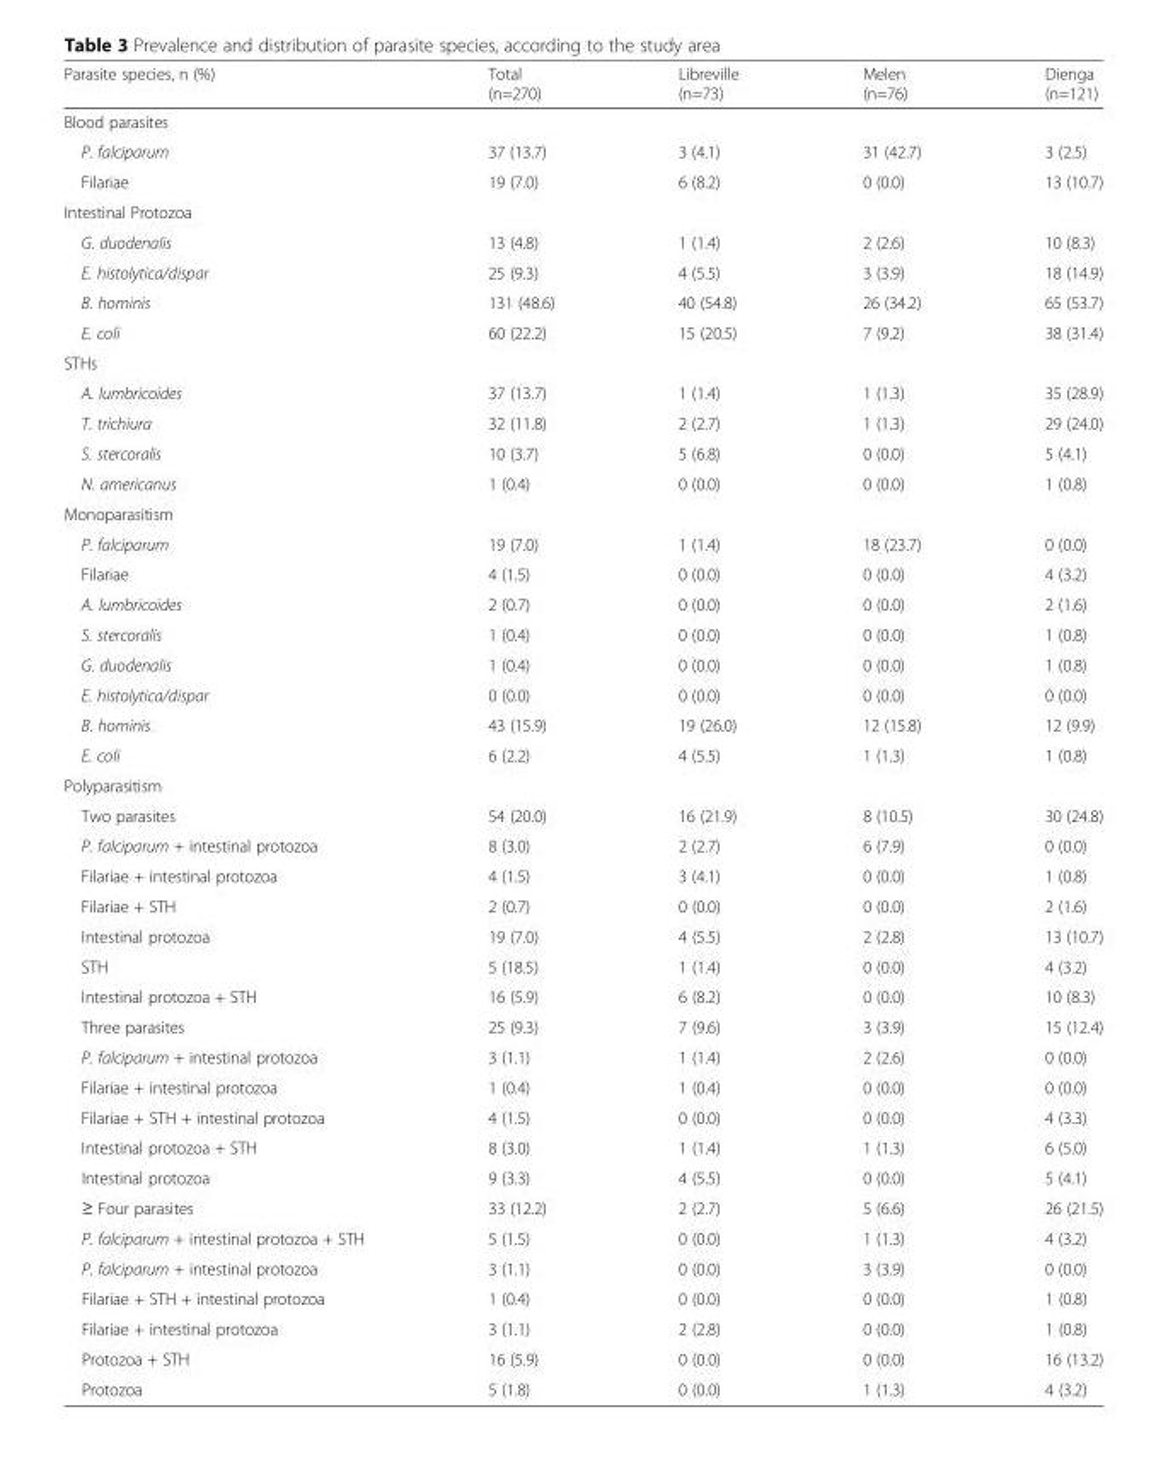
<table><thead><tr><td>Parasite species, n (%)</td><td>Total (n=270)</td><td>Libreville (n=73)</td><td>Melen (n=76)</td><td>Dienga (n=121)</td></tr></thead><tbody><tr><td colspan="5">Blood parasites</td></tr><tr><td>P. falciparum</td><td>37 (13.7)</td><td>3 (4.1)</td><td>31 (42.7)</td><td>3 (2.5)</td></tr><tr><td>Filariae</td><td>19 (7.0)</td><td>6 (8.2)</td><td>0 (0.0)</td><td>13 (10.7)</td></tr><tr><td colspan="5">Intestinal Protozoa</td></tr><tr><td>G. duodenalis</td><td>13 (4.8)</td><td>1 (1.4)</td><td>2 (2.6)</td><td>10 (8.3)</td></tr><tr><td>E. histolytica/dispar</td><td>25 (9.3)</td><td>4 (5.5)</td><td>3 (3.9)</td><td>18 (14.9)</td></tr><tr><td>B. hominis</td><td>131 (48.6)</td><td>40 (54.8)</td><td>26 (34.2)</td><td>65 (53.7)</td></tr><tr><td>E. coli</td><td>60 (22.2)</td><td>15 (20.5)</td><td>7 (9.2)</td><td>38 (31.4)</td></tr><tr><td colspan="5">STHs</td></tr><tr><td>A. lumbricoides</td><td>37 (13.7)</td><td>1 (1.4)</td><td>1 (1.3)</td><td>35 (28.9)</td></tr><tr><td>T. trichiura</td><td>32 (11.8)</td><td>2 (2.7)</td><td>1 (1.3)</td><td>29 (24.0)</td></tr><tr><td>S. stercoralis</td><td>10 (3.7)</td><td>5 (6.8)</td><td>0 (0.0)</td><td>5 (4.1)</td></tr><tr><td>N. americanus</td><td>1 (0.4)</td><td>0 (0.0)</td><td>0 (0.0)</td><td>1 (0.8)</td></tr><tr><td colspan="5">Monoparasitism</td></tr><tr><td>P. falciparum</td><td>19 (7.0)</td><td>1 (1.4)</td><td>18 (23.7)</td><td>0 (0.0)</td></tr><tr><td>Filariae</td><td>4 (1.5)</td><td>0 (0.0)</td><td>0 (0.0)</td><td>4 (3.2)</td></tr><tr><td>A. lumbricoides</td><td>2 (0.7)</td><td>0 (0.0)</td><td>0 (0.0)</td><td>2 (1.6)</td></tr><tr><td>S. stercoralis</td><td>1 (0.4)</td><td>0 (0.0)</td><td>0 (0.0)</td><td>1 (0.8)</td></tr><tr><td>G. duodenalis</td><td>1 (0.4)</td><td>0 (0.0)</td><td>0 (0.0)</td><td>1 (0.8)</td></tr><tr><td>E. histolytica/dispar</td><td>0 (0.0)</td><td>0 (0.0)</td><td>0 (0.0)</td><td>0 (0.0)</td></tr><tr><td>B. hominis</td><td>43 (15.9)</td><td>19 (26.0)</td><td>12 (15.8)</td><td>12 (9.9)</td></tr><tr><td>E. coli</td><td>6 (2.2)</td><td>4 (5.5)</td><td>1 (1.3)</td><td>1 (0.8)</td></tr><tr><td colspan="5">Polyparasitism</td></tr><tr><td>Two parasites</td><td>54 (20.0)</td><td>16 (21.9)</td><td>8 (10.5)</td><td>30 (24.8)</td></tr><tr><td>P. falciparum + intestinal protozoa</td><td>8 (3.0)</td><td>2 (2.7)</td><td>6 (7.9)</td><td>0 (0.0)</td></tr><tr><td>Filariae + intestinal protozoa</td><td>4 (1.5)</td><td>3 (4.1)</td><td>0 (0.0)</td><td>1 (0.8)</td></tr><tr><td>Filariae + STH</td><td>2 (0.7)</td><td>0 (0.0)</td><td>0 (0.0)</td><td>2 (1.6)</td></tr><tr><td>Intestinal protozoa</td><td>19 (7.0)</td><td>4 (5.5)</td><td>2 (2.8)</td><td>13 (10.7)</td></tr><tr><td>STH</td><td>5 (18.5)</td><td>1 (1.4)</td><td>0 (0.0)</td><td>4 (3.2)</td></tr><tr><td>Intestinal protozoa + STH</td><td>16 (5.9)</td><td>6 (8.2)</td><td>0 (0.0)</td><td>10 (8.3)</td></tr><tr><td>Three parasites</td><td>25 (9.3)</td><td>7 (9.6)</td><td>3 (3.9)</td><td>15 (12.4)</td></tr><tr><td>P. falciparum + intestinal protozoa</td><td>3 (1.1)</td><td>1 (1.4)</td><td>2 (2.6)</td><td>0 (0.0)</td></tr><tr><td>Filariae + intestinal protozoa</td><td>1 (0.4)</td><td>1 (0.4)</td><td>0 (0.0)</td><td>0 (0.0)</td></tr><tr><td>Filariae + STH + intestinal protozoa</td><td>4 (1.5)</td><td>0 (0.0)</td><td>0 (0.0)</td><td>4 (3.3)</td></tr><tr><td>Intestinal protozoa + STH</td><td>8 (3.0)</td><td>1 (1.4)</td><td>1 (1.3)</td><td>6 (5.0)</td></tr><tr><td>Intestinal protozoa</td><td>9 (3.3)</td><td>4 (5.5)</td><td>0 (0.0)</td><td>5 (4.1)</td></tr><tr><td>≥ Four parasites</td><td>33 (12.2)</td><td>2 (2.7)</td><td>5 (6.6)</td><td>26 (21.5)</td></tr><tr><td>P. falciparum + intestinal protozoa + STH</td><td>5 (1.5)</td><td>0 (0.0)</td><td>1 (1.3)</td><td>4 (3.2)</td></tr><tr><td>P. falciparum + intestinal protozoa</td><td>3 (1.1)</td><td>0 (0.0)</td><td>3 (3.9)</td><td>0 (0.0)</td></tr><tr><td>Filariae + STH + intestinal protozoa</td><td>1 (0.4)</td><td>0 (0.0)</td><td>0 (0.0)</td><td>1 (0.8)</td></tr><tr><td>Filariae + intestinal protozoa</td><td>3 (1.1)</td><td>2 (2.8)</td><td>0 (0.0)</td><td>1 (0.8)</td></tr><tr><td>Protozoa + STH</td><td>16 (5.9)</td><td>0 (0.0)</td><td>0 (0.0)</td><td>16 (13.2)</td></tr><tr><td>Protozoa</td><td>5 (1.8)</td><td>0 (0.0)</td><td>1 (1.3)</td><td>4 (3.2)</td></tr></tbody></table>